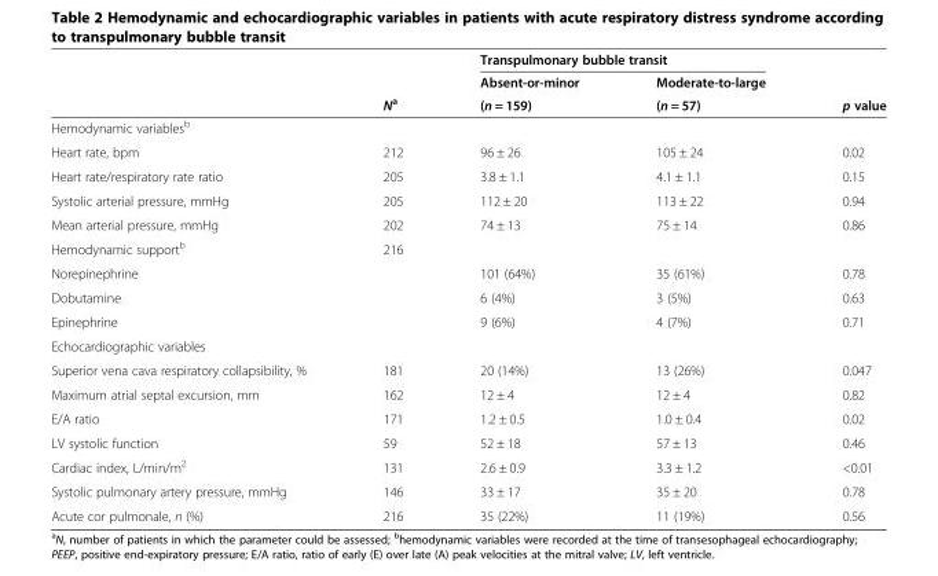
<table><thead><tr><td rowspan="3"></td><td rowspan="3">N<sup>a</sup></td><td colspan="2">Transpulmonary bubble transit</td><td rowspan="3">p value</td></tr><tr><td rowspan="2">Absent-or-minor (n = 159)</td><td rowspan="2">Moderate-to-large (n = 57)</td></tr><tr></tr></thead><tbody><tr><td colspan="5">Hemodynamic variables<sup>b</sup></td></tr><tr><td>Heart rate, bpm</td><td>212</td><td>96 ± 26</td><td>105 ± 24</td><td>0.02</td></tr><tr><td>Heart rate/respiratory rate ratio</td><td>205</td><td>3.8 ± 1.1</td><td>4.1 ± 1.1</td><td>0.15</td></tr><tr><td>Systolic arterial pressure, mmHg</td><td>205</td><td>112 ± 20</td><td>113 ± 22</td><td>0.94</td></tr><tr><td>Mean arterial pressure, mmHg</td><td>202</td><td>74 ± 13</td><td>75 ± 14</td><td>0.86</td></tr><tr><td>Hemodynamic support<sup>b</sup></td><td>216</td><td></td><td></td><td></td></tr><tr><td>Norepinephrine</td><td></td><td>101 (64%)</td><td>35 (61%)</td><td>0.78</td></tr><tr><td>Dobutamine</td><td></td><td>6 (4%)</td><td>3 (5%)</td><td>0.63</td></tr><tr><td>Epinephrine</td><td></td><td>9 (6%)</td><td>4 (7%)</td><td>0.71</td></tr><tr><td colspan="5">Echocardiographic variables</td></tr><tr><td>Superior vena cava respiratory collapsibility, %</td><td>181</td><td>20 (14%)</td><td>13 (26%)</td><td>0.047</td></tr><tr><td>Maximum atrial septal excursion, mm</td><td>162</td><td>12 ± 4</td><td>12 ± 4</td><td>0.82</td></tr><tr><td>E/A ratio</td><td>171</td><td>1.2 ± 0.5</td><td>1.0 ± 0.4</td><td>0.02</td></tr><tr><td>LV systolic function</td><td>59</td><td>52 ± 18</td><td>57 ± 13</td><td>0.46</td></tr><tr><td>Cardiac index, L/min/m<sup>2</sup></td><td>131</td><td>2.6 ± 0.9</td><td>3.3 ± 1.2</td><td>&lt;0.01</td></tr><tr><td>Systolic pulmonary artery pressure, mmHg</td><td>146</td><td>33 ± 17</td><td>35 ± 20</td><td>0.78</td></tr><tr><td>Acute cor pulmonale, n (%)</td><td>216</td><td>35 (22%)</td><td>11 (19%)</td><td>0.56</td></tr></tbody></table>